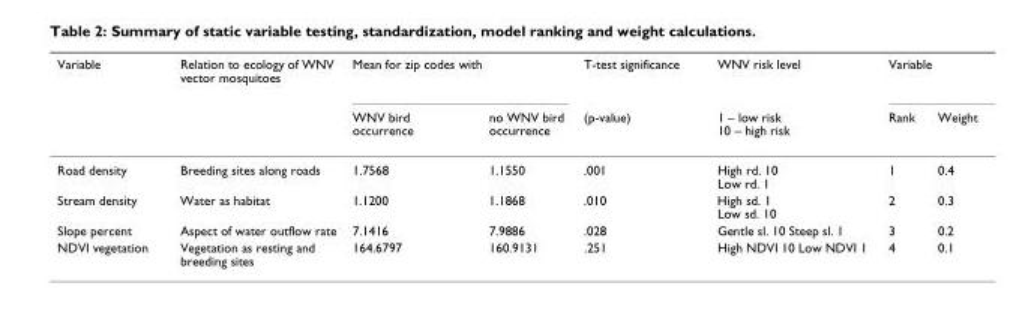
<table><thead><tr><td rowspan="2">Variable</td><td rowspan="2">Relation to ecology of WNV vector mosquitoes</td><td colspan="2">Mean for zip codes with</td><td rowspan="2">T-test significance (p-value)</td><td rowspan="2">WNV risk level 1 – low risk 10 – high risk</td><td colspan="2">Variable</td></tr><tr><td>WNV bird occurrence</td><td>no WNV bird occurrence</td><td>Rank</td><td>Weight</td></tr></thead><tbody><tr><td>Road density</td><td>Breeding sites along roads</td><td>1.7568</td><td>1.1550</td><td>.001</td><td>High rd. 10 Low rd. 1</td><td>1</td><td>0.4</td></tr><tr><td>Stream density</td><td>Water as habitat</td><td>1.1200</td><td>1.1868</td><td>.010</td><td>High sd. 1 Low sd. 10</td><td>2</td><td>0.3</td></tr><tr><td>Slope percent</td><td>Aspect of water outflow rate</td><td>7.1416</td><td>7.9886</td><td>.028</td><td>Gentle sl. 10 Steep sl. 1</td><td>3</td><td>0.2</td></tr><tr><td>NDVI vegetation</td><td>Vegetation as resting and breeding sites</td><td>164.6797</td><td>160.9131</td><td>.251</td><td>High NDVI 10 Low NDVI 1</td><td>4</td><td>0.1</td></tr></tbody></table>